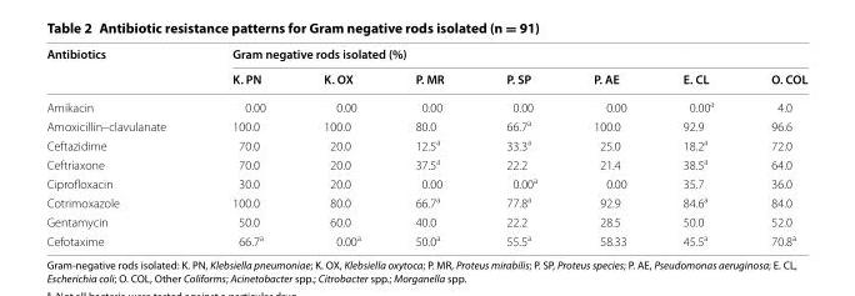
<table><thead><tr><td rowspan="2">Antibiotics</td><td colspan="7">Gram negative rods isolated (%)</td></tr><tr><td>K. PN</td><td>K. OX</td><td>P. MR</td><td>P. SP</td><td>P. AE</td><td>E. CL</td><td>O. COL</td></tr></thead><tbody><tr><td>Amikacin</td><td>0.00</td><td>0.00</td><td>0.00</td><td>0.00</td><td>0.00</td><td>0.00<sup>a</sup></td><td>4.0</td></tr><tr><td>Amoxicillin–clavulanate</td><td>100.0</td><td>100.0</td><td>80.0</td><td>66.7<sup>a</sup></td><td>100.0</td><td>92.9</td><td>96.6</td></tr><tr><td>Ceftazidime</td><td>70.0</td><td>20.0</td><td>12.5<sup>a</sup></td><td>33.3<sup>a</sup></td><td>25.0</td><td>18.2<sup>a</sup></td><td>72.0</td></tr><tr><td>Ceftriaxone</td><td>70.0</td><td>20.0</td><td>37.5<sup>a</sup></td><td>22.2</td><td>21.4</td><td>38.5<sup>a</sup></td><td>64.0</td></tr><tr><td>Ciprofloxacin</td><td>30.0</td><td>20.0</td><td>0.00</td><td>0.00<sup>a</sup></td><td>0.00</td><td>35.7</td><td>36.0</td></tr><tr><td>Cotrimoxazole</td><td>100.0</td><td>80.0</td><td>66.7<sup>a</sup></td><td>77.8<sup>a</sup></td><td>92.9</td><td>84.6<sup>a</sup></td><td>84.0</td></tr><tr><td>Gentamycin</td><td>50.0</td><td>60.0</td><td>40.0</td><td>22.2</td><td>28.5</td><td>50.0</td><td>52.0</td></tr><tr><td>Cefotaxime</td><td>66.7<sup>a</sup></td><td>0.00<sup>a</sup></td><td>50.0<sup>a</sup></td><td>55.5<sup>a</sup></td><td>58.33</td><td>45.5<sup>a</sup></td><td>70.8<sup>a</sup></td></tr></tbody></table>